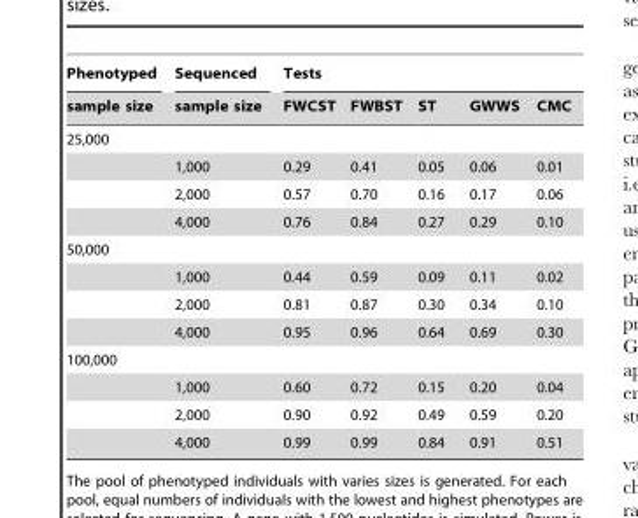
<table><thead><tr><td rowspan="2">Phenotyped sample size</td><td rowspan="2">Sequenced sample size</td><td colspan="5">Tests</td></tr><tr><td>FWCST</td><td>FWBST</td><td>ST</td><td>GWWS</td><td>CMC</td></tr></thead><tbody><tr><td colspan="7">25,000</td></tr><tr><td></td><td>1,000</td><td>0.29</td><td>0.41</td><td>0.05</td><td>0.06</td><td>0.01</td></tr><tr><td></td><td>2,000</td><td>0.57</td><td>0.70</td><td>0.16</td><td>0.17</td><td>0.06</td></tr><tr><td></td><td>4,000</td><td>0.76</td><td>0.84</td><td>0.27</td><td>0.29</td><td>0.10</td></tr><tr><td colspan="7">50,000</td></tr><tr><td></td><td>1,000</td><td>0.44</td><td>0.59</td><td>0.09</td><td>0.11</td><td>0.02</td></tr><tr><td></td><td>2,000</td><td>0.81</td><td>0.87</td><td>0.30</td><td>0.34</td><td>0.10</td></tr><tr><td></td><td>4,000</td><td>0.95</td><td>0.96</td><td>0.64</td><td>0.69</td><td>0.30</td></tr><tr><td colspan="7">100,000</td></tr><tr><td></td><td>1,000</td><td>0.60</td><td>0.72</td><td>0.15</td><td>0.20</td><td>0.04</td></tr><tr><td></td><td>2,000</td><td>0.90</td><td>0.92</td><td>0.49</td><td>0.59</td><td>0.20</td></tr><tr><td></td><td>4,000</td><td>0.99</td><td>0.99</td><td>0.84</td><td>0.91</td><td>0.51</td></tr></tbody></table>